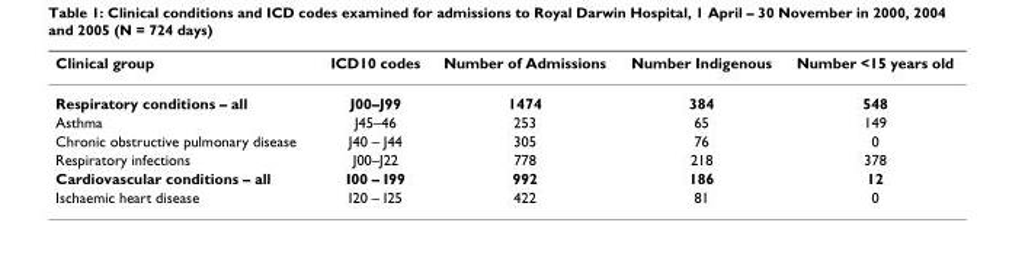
<table><thead><tr><td>Clinical group</td><td>ICD10 codes</td><td>Number of Admissions</td><td>Number Indigenous</td><td>Number &lt;15 years old</td></tr></thead><tbody><tr><td>Respiratory conditions – all</td><td>J00–J99</td><td>1474</td><td>384</td><td>548</td></tr><tr><td>Asthma</td><td>J45–46</td><td>253</td><td>65</td><td>149</td></tr><tr><td>Chronic obstructive pulmonary disease</td><td>J40 – J44</td><td>305</td><td>76</td><td>0</td></tr><tr><td>Respiratory infections</td><td>J00–J22</td><td>778</td><td>218</td><td>378</td></tr><tr><td>Cardiovascular conditions – all</td><td>I00 – I99</td><td>992</td><td>186</td><td>12</td></tr><tr><td>Ischaemic heart disease</td><td>I20 – I25</td><td>422</td><td>81</td><td>0</td></tr></tbody></table>